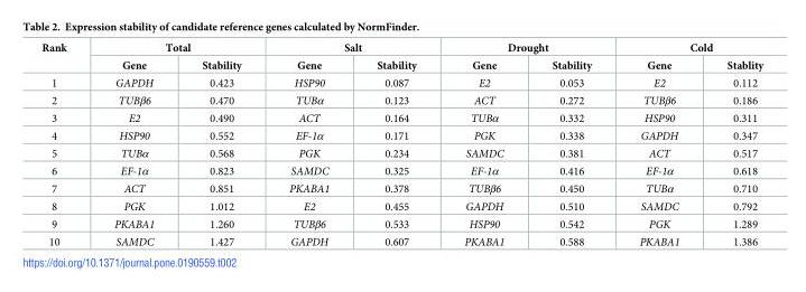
<table><thead><tr><td rowspan="2">Rank</td><td colspan="2">Total</td><td colspan="2">Salt</td><td colspan="2">Drought</td><td colspan="2">Cold</td></tr><tr><td>Gene</td><td>Stability</td><td>Gene</td><td>Stability</td><td>Gene</td><td>Stability</td><td>Gene</td><td>Stablity</td></tr></thead><tbody><tr><td>1</td><td>GAPDH</td><td>0.423</td><td>HSP90</td><td>0.087</td><td>E2</td><td>0.053</td><td>E2</td><td>0.112</td></tr><tr><td>2</td><td>TUBβ6</td><td>0.470</td><td>TUBα</td><td>0.123</td><td>ACT</td><td>0.272</td><td>TUBβ6</td><td>0.186</td></tr><tr><td>3</td><td>E2</td><td>0.490</td><td>ACT</td><td>0.164</td><td>TUBα</td><td>0.332</td><td>HSP90</td><td>0.311</td></tr><tr><td>4</td><td>HSP90</td><td>0.552</td><td>EF-1α</td><td>0.171</td><td>PGK</td><td>0.338</td><td>GAPDH</td><td>0.347</td></tr><tr><td>5</td><td>TUBα</td><td>0.568</td><td>PGK</td><td>0.234</td><td>SAMDC</td><td>0.381</td><td>ACT</td><td>0.517</td></tr><tr><td>6</td><td>EF-1α</td><td>0.823</td><td>SAMDC</td><td>0.325</td><td>EF-1α</td><td>0.416</td><td>EF-1α</td><td>0.618</td></tr><tr><td>7</td><td>ACT</td><td>0.851</td><td>PKABA1</td><td>0.378</td><td>TUBβ6</td><td>0.450</td><td>TUBα</td><td>0.710</td></tr><tr><td>8</td><td>PGK</td><td>1.012</td><td>E2</td><td>0.455</td><td>GAPDH</td><td>0.510</td><td>SAMDC</td><td>0.792</td></tr><tr><td>9</td><td>PKABA1</td><td>1.260</td><td>TUBβ6</td><td>0.533</td><td>HSP90</td><td>0.542</td><td>PGK</td><td>1.289</td></tr><tr><td>10</td><td>SAMDC</td><td>1.427</td><td>GAPDH</td><td>0.607</td><td>PKABA1</td><td>0.588</td><td>PKABA1</td><td>1.386</td></tr></tbody></table>